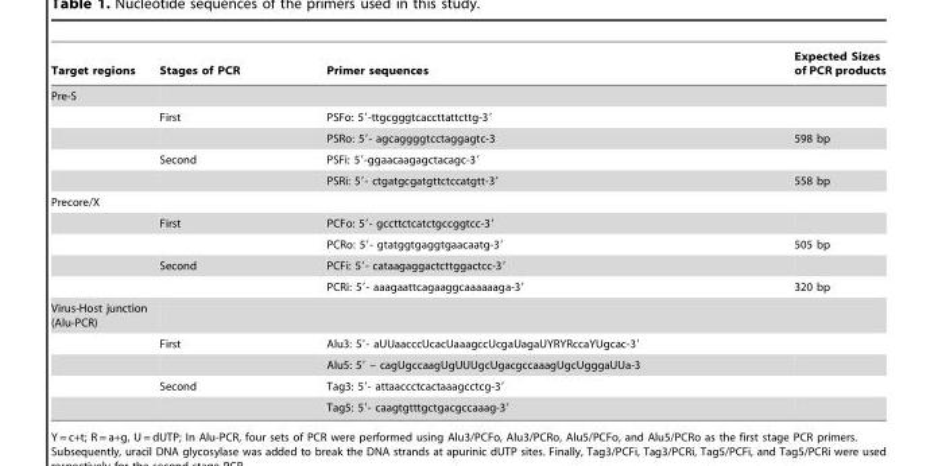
<table><thead><tr><td>Target regions</td><td>Stages of PCR</td><td>Primer sequences</td><td>Expected Sizes of PCR products</td></tr></thead><tbody><tr><td colspan="4">Pre-S</td></tr><tr><td></td><td>First</td><td>PSFo: 5′-ttgcgggtcaccttattcttg-3′</td><td></td></tr><tr><td></td><td></td><td>PSRo: 5′- agcaggggtcctaggagtc-3</td><td>598 bp</td></tr><tr><td></td><td>Second</td><td>PSFi: 5′-ggaacaagagctacagc-3′</td><td></td></tr><tr><td></td><td></td><td>PSRi: 5′- ctgatgcgatgttctccatgtt-3′</td><td>558 bp</td></tr><tr><td colspan="4">Precore/X</td></tr><tr><td></td><td>First</td><td>PCFo: 5′- gccttctcatctgccggtcc-3′</td><td></td></tr><tr><td></td><td></td><td>PCRo: 5′- gtatggtgaggtgaacaatg-3′</td><td>505 bp</td></tr><tr><td></td><td>Second</td><td>PCFi: 5′- cataagaggactcttggactcc-3′</td><td></td></tr><tr><td></td><td></td><td>PCRi: 5′- aaagaattcagaaggcaaaaaaga-3′</td><td>320 bp</td></tr><tr><td colspan="4">Virus-Host junction (Alu-PCR)</td></tr><tr><td></td><td>First</td><td>Alu3: 5′- aUUaacccUcacUaaagccUcgaUagaUYRYRccaYUgcac-3′</td><td></td></tr><tr><td></td><td></td><td>Alu5: 5′ – cagUgccaagUgUUUgcUgacgccaaagUgcUgggaUUa-3</td><td></td></tr><tr><td></td><td>Second</td><td>Tag3: 5′- attaaccctcactaaagcctcg-3′</td><td></td></tr><tr><td></td><td></td><td>Tag5: 5′- caagtgtttgctgacgccaaag-3′</td><td></td></tr></tbody></table>